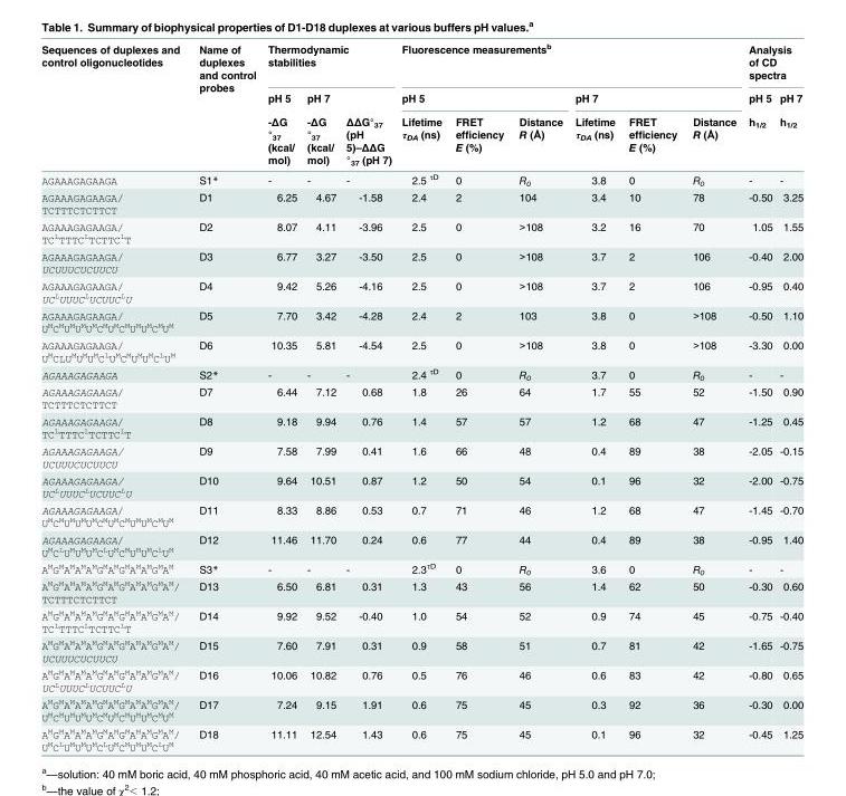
<table><thead><tr><td rowspan="3">Sequences of duplexes and control oligonucleotides</td><td rowspan="3">Name of duplexes and control probes</td><td colspan="3">Thermodynamic stabilities</td><td colspan="6">Fluorescence measurements<sup>b</sup></td><td colspan="2">Analysis of CD spectra</td></tr><tr><td rowspan="2">pH 5 -ΔG °<sub>37</sub> (kcal/ mol)</td><td rowspan="2">pH 7 -ΔG °<sub>37</sub> (kcal/ mol)</td><td rowspan="2">ΔΔG°<sub>37</sub> (pH 5)–ΔΔG °<sub>37</sub> (pH 7)</td><td colspan="3">pH 5</td><td colspan="3">pH 7</td><td rowspan="2">pH 5 h<sub>1/2</sub></td><td rowspan="2">pH 7 h<sub>1/2</sub></td></tr><tr><td>Lifetime τ<sub>DA</sub> (ns)</td><td>FRET efficiency E (%)</td><td>Distance R (Å)</td><td>Lifetime τ<sub>DA</sub> (ns)</td><td>FRET efficiency E (%)</td><td>Distance R (Å)</td></tr></thead><tbody><tr><td>AGAAAGAGAAGA</td><td>S1*</td><td>-</td><td>-</td><td>-</td><td>2.5 <sup>τD</sup></td><td>0</td><td>R<sub>0</sub></td><td>3.8</td><td>0</td><td>R<sub>0</sub></td><td>-</td><td>-</td></tr><tr><td>AGAAAGAGAAGA/ TCTTTCTCTTCT</td><td>D1</td><td>6.25</td><td>4.67</td><td>-1.58</td><td>2.4</td><td>2</td><td>104</td><td>3.4</td><td>10</td><td>78</td><td>-0.50</td><td>3.25</td></tr><tr><td>AGAAAGAGAAGA/ TC<sup>L</sup>TTTC<sup>L</sup>TCTTC<sup>L</sup>T</td><td>D2</td><td>8.07</td><td>4.11</td><td>-3.96</td><td>2.5</td><td>0</td><td>&gt;108</td><td>3.2</td><td>16</td><td>70</td><td>1.05</td><td>1.55</td></tr><tr><td>AGAAAGAGAAGA/ UCUUUCUCUUCU</td><td>D3</td><td>6.77</td><td>3.27</td><td>-3.50</td><td>2.5</td><td>0</td><td>&gt;108</td><td>3.7</td><td>2</td><td>106</td><td>-0.40</td><td>2.00</td></tr><tr><td>AGAAAGAGAAGA/ UC<sup>L</sup>UUUC<sup>L</sup>UCUUC<sup>L</sup>U</td><td>D4</td><td>9.42</td><td>5.26</td><td>-4.16</td><td>2.5</td><td>0</td><td>&gt;108</td><td>3.7</td><td>2</td><td>106</td><td>-0.95</td><td>0.40</td></tr><tr><td>AGAAAGAGAAGA/ U<sup>M</sup>C<sup>M</sup>U<sup>M</sup>U<sup>M</sup>U<sup>M</sup>C<sup>M</sup>U<sup>M</sup>C<sup>M</sup>U<sup>M</sup>U<sup>M</sup>C<sup>M</sup>U<sup>M</sup></td><td>D5</td><td>7.70</td><td>3.42</td><td>-4.28</td><td>2.4</td><td>2</td><td>103</td><td>3.8</td><td>0</td><td>&gt;108</td><td>-0.50</td><td>1.10</td></tr><tr><td>AGAAAGAGAAGA/ U<sup>M</sup>CLU<sup>M</sup>U<sup>M</sup>U<sup>M</sup>C<sup>L</sup>U<sup>M</sup>C<sup>M</sup>U<sup>M</sup>U<sup>M</sup>C<sup>L</sup>U<sup>M</sup></td><td>D6</td><td>10.35</td><td>5.81</td><td>-4.54</td><td>2.5</td><td>0</td><td>&gt;108</td><td>3.8</td><td>0</td><td>&gt;108</td><td>-3.30</td><td>0.00</td></tr><tr><td>AGAAAGAGAAGA</td><td>S2*</td><td>-</td><td>-</td><td>-</td><td>2.4 <sup>τD</sup></td><td>0</td><td>R<sub>0</sub></td><td>3.7</td><td>0</td><td>R<sub>0</sub></td><td>-</td><td>-</td></tr><tr><td>AGAAAGAGAAGA/ TCTTTCTCTTCT</td><td>D7</td><td>6.44</td><td>7.12</td><td>0.68</td><td>1.8</td><td>26</td><td>64</td><td>1.7</td><td>55</td><td>52</td><td>-1.50</td><td>0.90</td></tr><tr><td>AGAAAGAGAAGA/ TC<sup>L</sup>TTTC<sup>L</sup>TCTTC<sup>L</sup>T</td><td>D8</td><td>9.18</td><td>9.94</td><td>0.76</td><td>1.4</td><td>57</td><td>57</td><td>1.2</td><td>68</td><td>47</td><td>-1.25</td><td>0.45</td></tr><tr><td>AGAAAGAGAAGA/ UCUUUCUCUUCU</td><td>D9</td><td>7.58</td><td>7.99</td><td>0.41</td><td>1.6</td><td>66</td><td>48</td><td>0.4</td><td>89</td><td>38</td><td>-2.05</td><td>-0.15</td></tr><tr><td>AGAAAGAGAAGA/ UC<sup>L</sup>UUUC<sup>L</sup>UCUUC<sup>L</sup>U</td><td>D10</td><td>9.64</td><td>10.51</td><td>0.87</td><td>1.2</td><td>50</td><td>54</td><td>0.1</td><td>96</td><td>32</td><td>-2.00</td><td>-0.75</td></tr><tr><td>AGAAAGAGAAGA/ U<sup>M</sup>C<sup>M</sup>U<sup>M</sup>U<sup>M</sup>U<sup>M</sup>C<sup>M</sup>U<sup>M</sup>C<sup>M</sup>U<sup>M</sup>U<sup>M</sup>C<sup>M</sup>U<sup>M</sup></td><td>D11</td><td>8.33</td><td>8.86</td><td>0.53</td><td>0.7</td><td>71</td><td>46</td><td>1.2</td><td>68</td><td>47</td><td>-1.45</td><td>-0.70</td></tr><tr><td>AGAAAGAGAAGA/ U<sup>M</sup>C<sup>L</sup>U<sup>M</sup>U<sup>M</sup>U<sup>M</sup>C<sup>L</sup>U<sup>M</sup>C<sup>M</sup>U<sup>M</sup>U<sup>M</sup>C<sup>L</sup>U<sup>M</sup></td><td>D12</td><td>11.46</td><td>11.70</td><td>0.24</td><td>0.6</td><td>77</td><td>44</td><td>0.4</td><td>89</td><td>38</td><td>-0.95</td><td>1.40</td></tr><tr><td>A<sup>M</sup>G<sup>M</sup>A<sup>M</sup>A<sup>M</sup>A<sup>M</sup>G<sup>M</sup>A<sup>M</sup>G<sup>M</sup>A<sup>M</sup>A<sup>M</sup>G<sup>M</sup>A<sup>M</sup></td><td>S3*</td><td>-</td><td>-</td><td>-</td><td>2.3<sup>τD</sup></td><td>0</td><td>R<sub>0</sub></td><td>3.6</td><td>0</td><td>R<sub>0</sub></td><td>-</td><td>-</td></tr><tr><td>A<sup>M</sup>G<sup>M</sup>A<sup>M</sup>A<sup>M</sup>A<sup>M</sup>G<sup>M</sup>A<sup>M</sup>G<sup>M</sup>A<sup>M</sup>A<sup>M</sup>G<sup>M</sup>A<sup>M</sup>/ TCTTTCTCTTCT</td><td>D13</td><td>6.50</td><td>6.81</td><td>0.31</td><td>1.3</td><td>43</td><td>56</td><td>1.4</td><td>62</td><td>50</td><td>-0.30</td><td>0.60</td></tr><tr><td>A<sup>M</sup>G<sup>M</sup>A<sup>M</sup>A<sup>M</sup>A<sup>M</sup>G<sup>M</sup>A<sup>M</sup>G<sup>M</sup>A<sup>M</sup>A<sup>M</sup>G<sup>M</sup>A<sup>M</sup>/ TC<sup>L</sup>TTTC<sup>L</sup>TCTTC<sup>L</sup>T</td><td>D14</td><td>9.92</td><td>9.52</td><td>-0.40</td><td>1.0</td><td>54</td><td>52</td><td>0.9</td><td>74</td><td>45</td><td>-0.75</td><td>-0.40</td></tr><tr><td>A<sup>M</sup>G<sup>M</sup>A<sup>M</sup>A<sup>M</sup>A<sup>M</sup>G<sup>M</sup>A<sup>M</sup>G<sup>M</sup>A<sup>M</sup>A<sup>M</sup>G<sup>M</sup>A<sup>M</sup>/ UCUUUCUCUUCU</td><td>D15</td><td>7.60</td><td>7.91</td><td>0.31</td><td>0.9</td><td>58</td><td>51</td><td>0.7</td><td>81</td><td>42</td><td>-1.65</td><td>-0.75</td></tr><tr><td>A<sup>M</sup>G<sup>M</sup>A<sup>M</sup>A<sup>M</sup>A<sup>M</sup>G<sup>M</sup>A<sup>M</sup>G<sup>M</sup>A<sup>M</sup>A<sup>M</sup>G<sup>M</sup>A<sup>M</sup>/ UC<sup>L</sup>UUUC<sup>L</sup>UCUUC<sup>L</sup>U</td><td>D16</td><td>10.06</td><td>10.82</td><td>0.76</td><td>0.5</td><td>76</td><td>46</td><td>0.6</td><td>83</td><td>42</td><td>-0.80</td><td>0.65</td></tr><tr><td>A<sup>M</sup>G<sup>M</sup>A<sup>M</sup>A<sup>M</sup>A<sup>M</sup>G<sup>M</sup>A<sup>M</sup>G<sup>M</sup>A<sup>M</sup>A<sup>M</sup>G<sup>M</sup>A<sup>M</sup>/ U<sup>M</sup>C<sup>M</sup>U<sup>M</sup>U<sup>M</sup>U<sup>M</sup>C<sup>M</sup>U<sup>M</sup>C<sup>M</sup>U<sup>M</sup>U<sup>M</sup>C<sup>M</sup>U<sup>M</sup></td><td>D17</td><td>7.24</td><td>9.15</td><td>1.91</td><td>0.6</td><td>75</td><td>45</td><td>0.3</td><td>92</td><td>36</td><td>-0.30</td><td>0.00</td></tr><tr><td>A<sup>M</sup>G<sup>M</sup>A<sup>M</sup>A<sup>M</sup>A<sup>M</sup>G<sup>M</sup>A<sup>M</sup>G<sup>M</sup>A<sup>M</sup>A<sup>M</sup>G<sup>M</sup>A<sup>M</sup>/ U<sup>M</sup>C<sup>L</sup>U<sup>M</sup>U<sup>M</sup>U<sup>M</sup>C<sup>L</sup>U<sup>M</sup>C<sup>M</sup>U<sup>M</sup>U<sup>M</sup>C<sup>L</sup>U<sup>M</sup></td><td>D18</td><td>11.11</td><td>12.54</td><td>1.43</td><td>0.6</td><td>75</td><td>45</td><td>0.1</td><td>96</td><td>32</td><td>-0.45</td><td>1.25</td></tr></tbody></table>